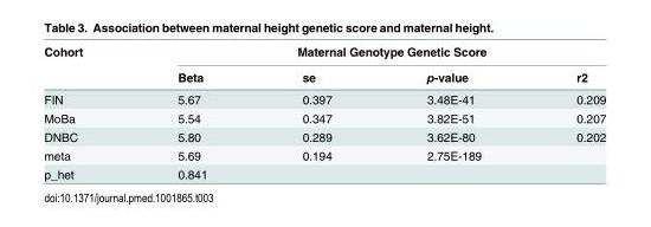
<table><thead><tr><td rowspan="2">Cohort</td><td colspan="4">Maternal Genotype Genetic Score</td></tr><tr><td>Beta</td><td>se</td><td>p-value</td><td>r2</td></tr></thead><tbody><tr><td>FIN</td><td>5.67</td><td>0.397</td><td>3.48E-41</td><td>0.209</td></tr><tr><td>MoBa</td><td>5.54</td><td>0.347</td><td>3.82E-51</td><td>0.207</td></tr><tr><td>DNBC</td><td>5.80</td><td>0.289</td><td>3.62E-80</td><td>0.202</td></tr><tr><td>meta</td><td>5.69</td><td>0.194</td><td>2.75E-189</td><td></td></tr><tr><td>p_het</td><td>0.841</td><td></td><td></td><td></td></tr></tbody></table>